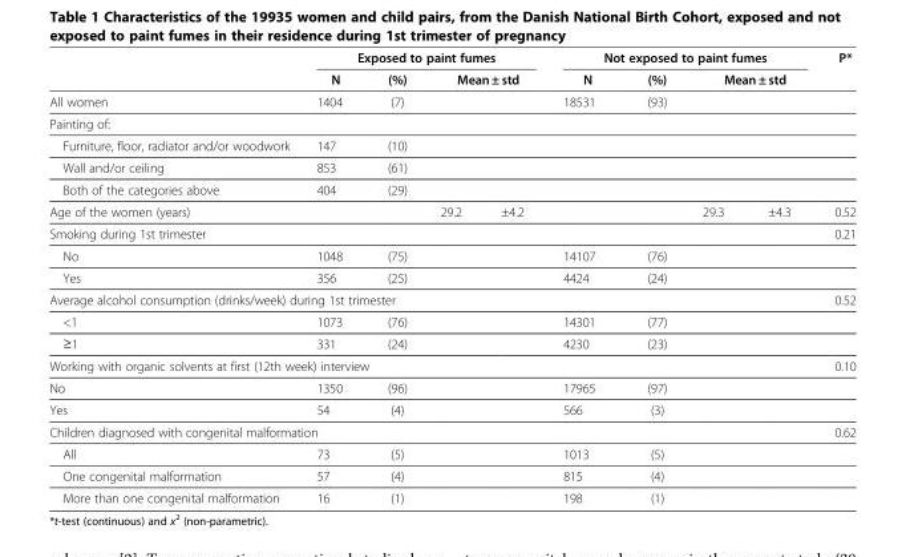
<table><thead><tr><td rowspan="3">All women</td><td colspan="4">Exposed to paint fumes</td><td colspan="4">Not exposed to paint fumes</td><td rowspan="3">P*</td></tr><tr><td rowspan="2">N 1404</td><td rowspan="2">(%) (7)</td><td colspan="2">Mean ± std</td><td rowspan="2">N 18531</td><td rowspan="2">(%) (93)</td><td colspan="2">Mean ± std</td></tr><tr><td></td><td></td><td></td><td></td></tr></thead><tbody><tr><td colspan="10">Painting of:</td></tr><tr><td>Furniture, floor, radiator and/or woodwork</td><td>147</td><td>(10)</td><td></td><td></td><td></td><td></td><td></td><td></td><td></td></tr><tr><td>Wall and/or ceiling</td><td>853</td><td>(61)</td><td></td><td></td><td></td><td></td><td></td><td></td><td></td></tr><tr><td>Both of the categories above</td><td>404</td><td>(29)</td><td></td><td></td><td></td><td></td><td></td><td></td><td></td></tr><tr><td>Age of the women (years)</td><td></td><td></td><td>29.2</td><td>±4.2</td><td></td><td></td><td>29.3</td><td>±4.3</td><td>0.52</td></tr><tr><td>Smoking during 1st trimester</td><td></td><td></td><td></td><td></td><td></td><td></td><td></td><td></td><td>0.21</td></tr><tr><td>No</td><td>1048</td><td>(75)</td><td></td><td></td><td>14107</td><td>(76)</td><td></td><td></td><td></td></tr><tr><td>Yes</td><td>356</td><td>(25)</td><td></td><td></td><td>4424</td><td>(24)</td><td></td><td></td><td></td></tr><tr><td colspan="9">Average alcohol consumption (drinks/week) during 1st trimester</td><td>0.52</td></tr><tr><td>&lt;1</td><td>1073</td><td>(76)</td><td></td><td></td><td>14301</td><td>(77)</td><td></td><td></td><td></td></tr><tr><td>≥1</td><td>331</td><td>(24)</td><td></td><td></td><td>4230</td><td>(23)</td><td></td><td></td><td></td></tr><tr><td colspan="9">Working with organic solvents at first (12th week) interview</td><td>0.10</td></tr><tr><td>No</td><td>1350</td><td>(96)</td><td></td><td></td><td>17965</td><td>(97)</td><td></td><td></td><td></td></tr><tr><td>Yes</td><td>54</td><td>(4)</td><td></td><td></td><td>566</td><td>(3)</td><td></td><td></td><td></td></tr><tr><td colspan="9">Children diagnosed with congenital malformation</td><td>0.62</td></tr><tr><td>All</td><td>73</td><td>(5)</td><td></td><td></td><td>1013</td><td>(5)</td><td></td><td></td><td></td></tr><tr><td>One congenital malformation</td><td>57</td><td>(4)</td><td></td><td></td><td>815</td><td>(4)</td><td></td><td></td><td></td></tr><tr><td>More than one congenital malformation</td><td>16</td><td>(1)</td><td></td><td></td><td>198</td><td>(1)</td><td></td><td></td><td></td></tr></tbody></table>